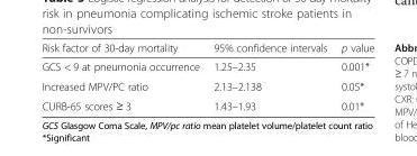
<table><thead><tr><td>Risk factor of 30-day mortality</td><td>95% confidence intervals</td><td>p value</td></tr></thead><tbody><tr><td>GCS &lt; 9 at pneumonia occurrence</td><td>1.25–2.35</td><td>0.001*</td></tr><tr><td>Increased MPV/PC ratio</td><td>2.13–2.138</td><td>0.05*</td></tr><tr><td>CURB-65 scores ≥ 3</td><td>1.43–1.93</td><td>0.01*</td></tr></tbody></table>